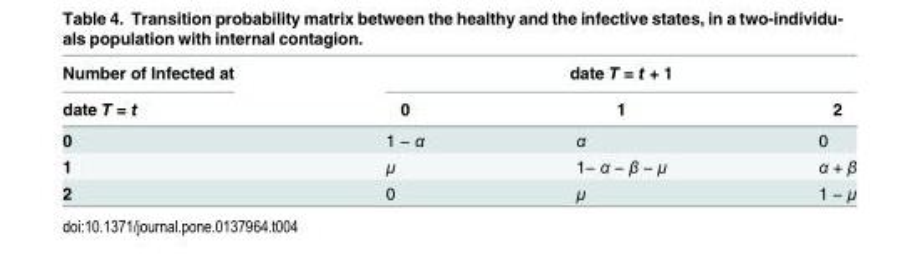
<table><thead><tr><td rowspan="2">Number of Infected at date T = t</td><td colspan="3">date T = t + 1</td></tr><tr><td>0</td><td>1</td><td>2</td></tr></thead><tbody><tr><td>0</td><td>1 − α</td><td>α</td><td>0</td></tr><tr><td>1</td><td>μ</td><td>1− α − β − μ</td><td>α + β</td></tr><tr><td>2</td><td>0</td><td>μ</td><td>1 − μ</td></tr></tbody></table>